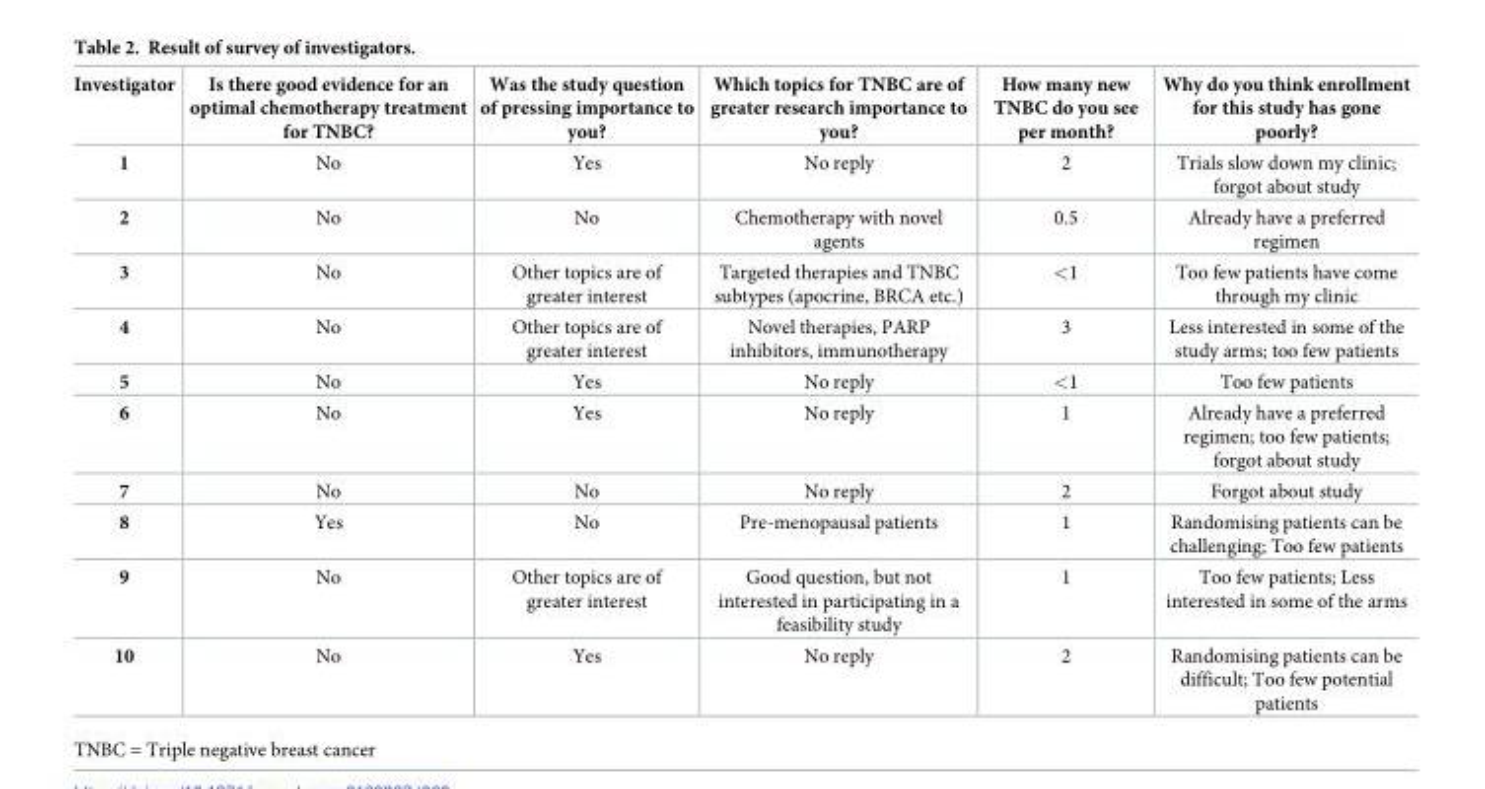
<table><thead><tr><td>Investigator</td><td>Is there good evidence for an optimal chemotherapy treatment for TNBC?</td><td>Was the study question of pressing importance to you?</td><td>Which topics for TNBC are of greater research importance to you?</td><td>How many new TNBC do you see per month?</td><td>Why do you think enrollment for this study has gone poorly?</td></tr></thead><tbody><tr><td>1</td><td>No</td><td>Yes</td><td>No reply</td><td>2</td><td>Trials slow down my clinic; forgot about study</td></tr><tr><td>2</td><td>No</td><td>No</td><td>Chemotherapy with novel agents</td><td>0.5</td><td>Already have a preferred regimen</td></tr><tr><td>3</td><td>No</td><td>Other topics are of greater interest</td><td>Targeted therapies and TNBC subtypes (apocrine, BRCA etc.)</td><td>&lt;1</td><td>Too few patients have come through my clinic</td></tr><tr><td>4</td><td>No</td><td>Other topics are of greater interest</td><td>Novel therapies, PARP inhibitors, immunotherapy</td><td>3</td><td>Less interested in some of the study arms; too few patients</td></tr><tr><td>5</td><td>No</td><td>Yes</td><td>No reply</td><td>&lt;1</td><td>Too few patients</td></tr><tr><td>6</td><td>No</td><td>Yes</td><td>No reply</td><td>1</td><td>Already have a preferred regimen; too few patients; forgot about study</td></tr><tr><td>7</td><td>No</td><td>No</td><td>No reply</td><td>2</td><td>Forgot about study</td></tr><tr><td>8</td><td>Yes</td><td>No</td><td>Pre-menopausal patients</td><td>1</td><td>Randomising patients can be challenging; Too few patients</td></tr><tr><td>9</td><td>No</td><td>Other topics are of greater interest</td><td>Good question, but not interested in participating in a feasibility study</td><td>1</td><td>Too few patients; Less interested in some of the arms</td></tr><tr><td>10</td><td>No</td><td>Yes</td><td>No reply</td><td>2</td><td>Randomising patients can be difficult; Too few potential patients</td></tr></tbody></table>